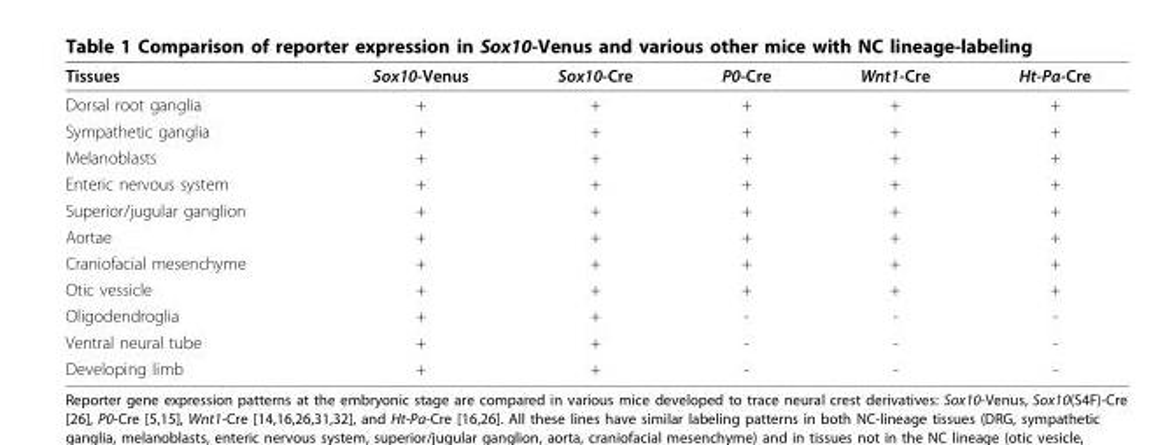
<table><thead><tr><td>Tissues</td><td>Sox10-Venus</td><td>Sox10-Cre</td><td>P0-Cre</td><td>Wnt1-Cre</td><td>Ht-Pa-Cre</td></tr></thead><tbody><tr><td>Dorsal root ganglia</td><td>+</td><td>+</td><td>+</td><td>+</td><td>+</td></tr><tr><td>Sympathetic ganglia</td><td>+</td><td>+</td><td>+</td><td>+</td><td>+</td></tr><tr><td>Melanoblasts</td><td>+</td><td>+</td><td>+</td><td>+</td><td>+</td></tr><tr><td>Enteric nervous system</td><td>+</td><td>+</td><td>+</td><td>+</td><td>+</td></tr><tr><td>Superior/jugular ganglion</td><td>+</td><td>+</td><td>+</td><td>+</td><td>+</td></tr><tr><td>Aortae</td><td>+</td><td>+</td><td>+</td><td>+</td><td>+</td></tr><tr><td>Craniofacial mesenchyme</td><td>+</td><td>+</td><td>+</td><td>+</td><td>+</td></tr><tr><td>Otic vessicle</td><td>+</td><td>+</td><td>+</td><td>+</td><td>+</td></tr><tr><td>Oligodendroglia</td><td>+</td><td>+</td><td>-</td><td>-</td><td>-</td></tr><tr><td>Ventral neural tube</td><td>+</td><td>+</td><td>-</td><td>-</td><td>-</td></tr><tr><td>Developing limb</td><td>+</td><td>+</td><td>-</td><td>-</td><td>-</td></tr></tbody></table>